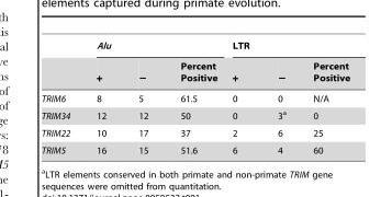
<table><thead><tr><td rowspan="2"></td><td colspan="3">Alu</td><td colspan="3">LTR</td></tr><tr><td>+</td><td>−</td><td>Percent Positive</td><td>+</td><td>−</td><td>Percent Positive</td></tr></thead><tbody><tr><td>TRIM6</td><td>8</td><td>5</td><td>61.5</td><td>0</td><td>0</td><td>N/A</td></tr><tr><td>TRIM34</td><td>12</td><td>12</td><td>50</td><td>0</td><td>3<sup>a</sup></td><td>0</td></tr><tr><td>TRIM22</td><td>10</td><td>17</td><td>37</td><td>2</td><td>6</td><td>25</td></tr><tr><td>TRIM5</td><td>16</td><td>15</td><td>51.6</td><td>6</td><td>4</td><td>60</td></tr></tbody></table>